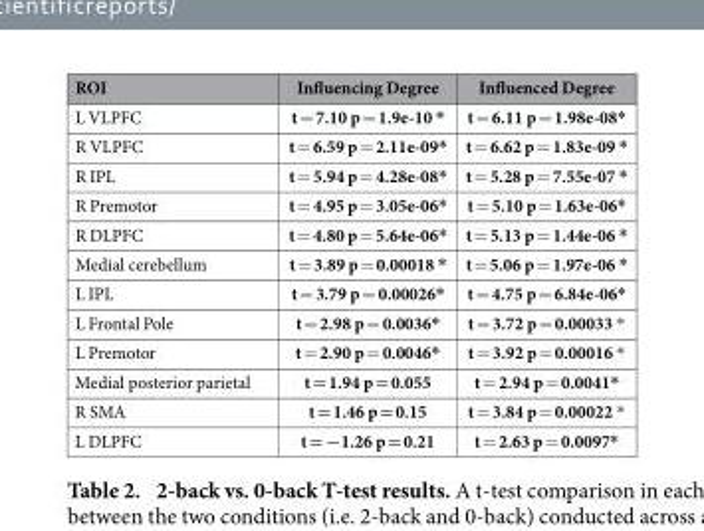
<table><thead><tr><td>ROI</td><td>Influencing Degree</td><td>Influenced Degree</td></tr></thead><tbody><tr><td>L VLPFC</td><td>t = 7.10 p = 1.9e-10 *</td><td>t = 6.11 p = 1.98e-08*</td></tr><tr><td>R VLPFC</td><td>t = 6.59 p = 2.11e-09*</td><td>t = 6.62 p = 1.83e-09 *</td></tr><tr><td>R IPL</td><td>t = 5.94 p = 4.28e-08*</td><td>t = 5.28 p = 7.55e-07 *</td></tr><tr><td>R Premotor</td><td>t = 4.95 p = 3.05e-06*</td><td>t = 5.10 p = 1.63e-06*</td></tr><tr><td>R DLPFC</td><td>t = 4.80 p = 5.64e-06*</td><td>t = 5.13 p = 1.44e-06 *</td></tr><tr><td>Medial cerebellum</td><td>t = 3.89 p = 0.00018 *</td><td>t = 5.06 p = 1.97e-06 *</td></tr><tr><td>L IPL</td><td>t = 3.79 p = 0.00026*</td><td>t = 4.75 p = 6.84e-06*</td></tr><tr><td>L Frontal Pole</td><td>t = 2.98 p = 0.0036*</td><td>t = 3.72 p = 0.00033 *</td></tr><tr><td>L Premotor</td><td>t = 2.90 p = 0.0046*</td><td>t = 3.92 p = 0.00016 *</td></tr><tr><td>Medial posterior parietal</td><td>t = 1.94 p = 0.055</td><td>t = 2.94 p = 0.0041*</td></tr><tr><td>R SMA</td><td>t = 1.46 p = 0.15</td><td>t = 3.84 p = 0.00022 *</td></tr><tr><td>L DLPFC</td><td>t = −1.26 p = 0.21</td><td>t = 2.63 p = 0.0097*</td></tr></tbody></table>